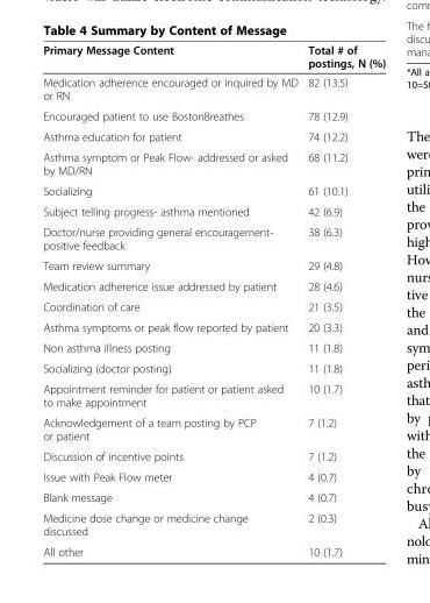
<table><thead><tr><td>Primary Message Content</td><td>Total # of postings, N (%)</td></tr></thead><tbody><tr><td>Medication adherence encouraged or inquired by MD or RN</td><td>82 (13.5)</td></tr><tr><td>Encouraged patient to use BostonBreathes</td><td>78 (12.9)</td></tr><tr><td>Asthma education for patient</td><td>74 (12.2)</td></tr><tr><td>Asthma symptom or Peak Flow- addressed or asked by MD/RN</td><td>68 (11.2)</td></tr><tr><td>Socializing</td><td>61 (10.1)</td></tr><tr><td>Subject telling progress- asthma mentioned</td><td>42 (6.9)</td></tr><tr><td>Doctor/nurse providing general encouragement- positive feedback</td><td>38 (6.3)</td></tr><tr><td>Team review summary</td><td>29 (4.8)</td></tr><tr><td>Medication adherence issue addressed by patient</td><td>28 (4.6)</td></tr><tr><td>Coordination of care</td><td>21 (3.5)</td></tr><tr><td>Asthma symptoms or peak flow reported by patient</td><td>20 (3.3)</td></tr><tr><td>Non asthma illness posting</td><td>11 (1.8)</td></tr><tr><td>Socializing (doctor posting)</td><td>11 (1.8)</td></tr><tr><td>Appointment reminder for patient or patient asked to make appointment</td><td>10 (1.7)</td></tr><tr><td>Acknowledgement of a team posting by PCP or patient</td><td>7 (1.2)</td></tr><tr><td>Discussion of incentive points</td><td>7 (1.2)</td></tr><tr><td>Issue with Peak Flow meter</td><td>4 (0.7)</td></tr><tr><td>Blank message</td><td>4 (0.7)</td></tr><tr><td>Medicine dose change or medicine change discussed</td><td>2 (0.3)</td></tr><tr><td>All other</td><td>10 (1.7)</td></tr></tbody></table>